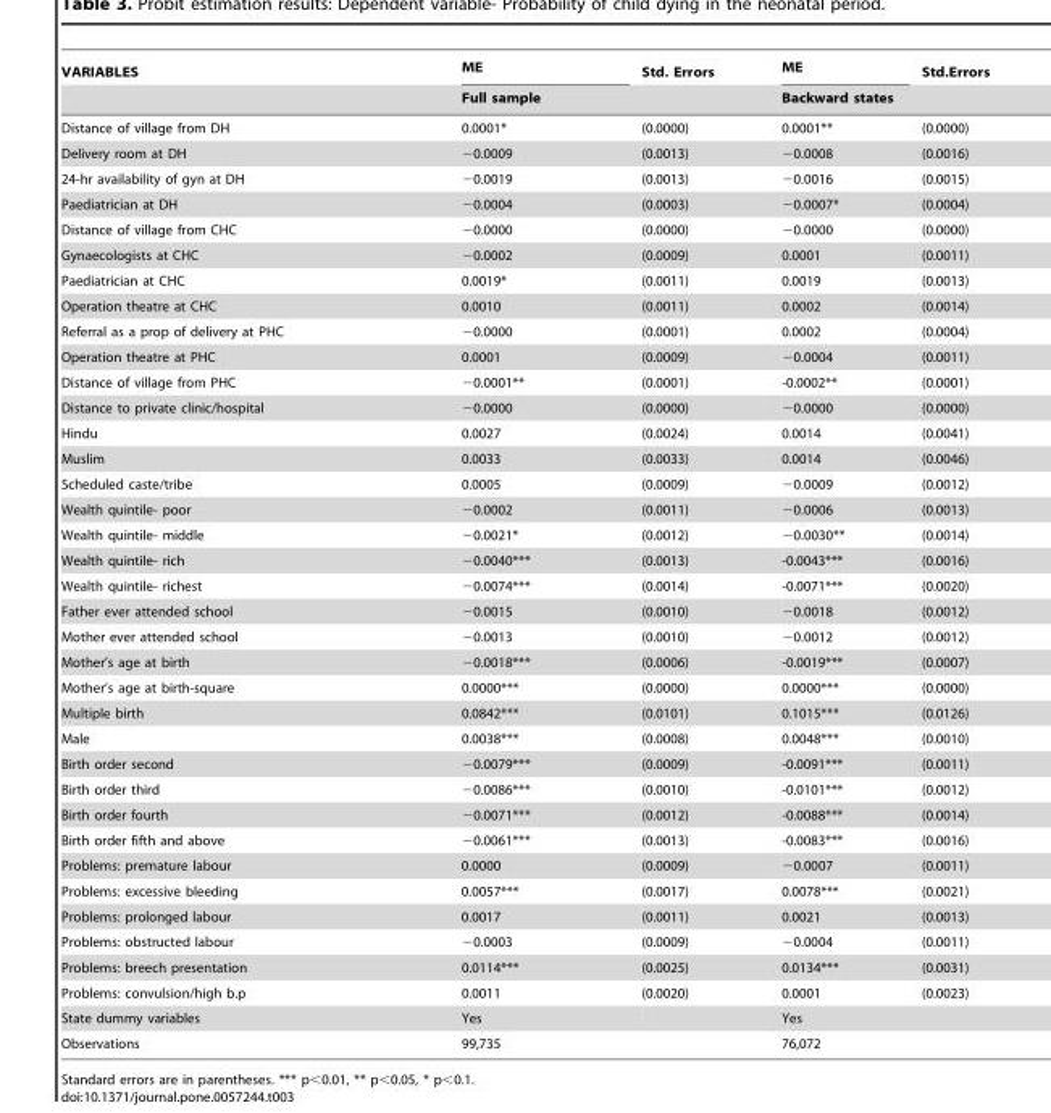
<table><thead><tr><td rowspan="2">VARIABLES</td><td>ME</td><td>Std. Errors</td><td>ME</td><td>Std.Errors</td></tr><tr><td colspan="2">Full sample</td><td colspan="2">Backward states</td></tr></thead><tbody><tr><td>Distance of village from DH</td><td>0.0001*</td><td>(0.0000)</td><td>0.0001**</td><td>(0.0000)</td></tr><tr><td>Delivery room at DH</td><td>−0.0009</td><td>(0.0013)</td><td>−0.0008</td><td>(0.0016)</td></tr><tr><td>24-hr availability of gyn at DH</td><td>−0.0019</td><td>(0.0013)</td><td>−0.0016</td><td>(0.0015)</td></tr><tr><td>Paediatrician at DH</td><td>−0.0004</td><td>(0.0003)</td><td>−0.0007*</td><td>(0.0004)</td></tr><tr><td>Distance of village from CHC</td><td>−0.0000</td><td>(0.0000)</td><td>−0.0000</td><td>(0.0000)</td></tr><tr><td>Gynaecologists at CHC</td><td>−0.0002</td><td>(0.0009)</td><td>0.0001</td><td>(0.0011)</td></tr><tr><td>Paediatrician at CHC</td><td>0.0019*</td><td>(0.0011)</td><td>0.0019</td><td>(0.0013)</td></tr><tr><td>Operation theatre at CHC</td><td>0.0010</td><td>(0.0011)</td><td>0.0002</td><td>(0.0014)</td></tr><tr><td>Referral as a prop of delivery at PHC</td><td>−0.0000</td><td>(0.0001)</td><td>0.0002</td><td>(0.0004)</td></tr><tr><td>Operation theatre at PHC</td><td>0.0001</td><td>(0.0009)</td><td>−0.0004</td><td>(0.0011)</td></tr><tr><td>Distance of village from PHC</td><td>−0.0001**</td><td>(0.0001)</td><td>-0.0002**</td><td>(0.0001)</td></tr><tr><td>Distance to private clinic/hospital</td><td>−0.0000</td><td>(0.0000)</td><td>−0.0000</td><td>(0.0000)</td></tr><tr><td>Hindu</td><td>0.0027</td><td>(0.0024)</td><td>0.0014</td><td>(0.0041)</td></tr><tr><td>Muslim</td><td>0.0033</td><td>(0.0033)</td><td>0.0014</td><td>(0.0046)</td></tr><tr><td>Scheduled caste/tribe</td><td>0.0005</td><td>(0.0009)</td><td>−0.0009</td><td>(0.0012)</td></tr><tr><td>Wealth quintile- poor</td><td>−0.0002</td><td>(0.0011)</td><td>−0.0006</td><td>(0.0013)</td></tr><tr><td>Wealth quintile- middle</td><td>−0.0021*</td><td>(0.0012)</td><td>−0.0030**</td><td>(0.0014)</td></tr><tr><td>Wealth quintile- rich</td><td>−0.0040***</td><td>(0.0013)</td><td>-0.0043***</td><td>(0.0016)</td></tr><tr><td>Wealth quintile- richest</td><td>−0.0074***</td><td>(0.0014)</td><td>-0.0071***</td><td>(0.0020)</td></tr><tr><td>Father ever attended school</td><td>−0.0015</td><td>(0.0010)</td><td>−0.0018</td><td>(0.0012)</td></tr><tr><td>Mother ever attended school</td><td>−0.0013</td><td>(0.0010)</td><td>−0.0012</td><td>(0.0012)</td></tr><tr><td>Mother’s age at birth</td><td>−0.0018***</td><td>(0.0006)</td><td>-0.0019***</td><td>(0.0007)</td></tr><tr><td>Mother’s age at birth-square</td><td>0.0000***</td><td>(0.0000)</td><td>0.0000***</td><td>(0.0000)</td></tr><tr><td>Multiple birth</td><td>0.0842***</td><td>(0.0101)</td><td>0.1015***</td><td>(0.0126)</td></tr><tr><td>Male</td><td>0.0038***</td><td>(0.0008)</td><td>0.0048***</td><td>(0.0010)</td></tr><tr><td>Birth order second</td><td>−0.0079***</td><td>(0.0009)</td><td>-0.0091***</td><td>(0.0011)</td></tr><tr><td>Birth order third</td><td>−0.0086***</td><td>(0.0010)</td><td>-0.0101***</td><td>(0.0012)</td></tr><tr><td>Birth order fourth</td><td>−0.0071***</td><td>(0.0012)</td><td>-0.0088***</td><td>(0.0014)</td></tr><tr><td>Birth order fifth and above</td><td>−0.0061***</td><td>(0.0013)</td><td>-0.0083***</td><td>(0.0016)</td></tr><tr><td>Problems: premature labour</td><td>0.0000</td><td>(0.0009)</td><td>−0.0007</td><td>(0.0011)</td></tr><tr><td>Problems: excessive bleeding</td><td>0.0057***</td><td>(0.0017)</td><td>0.0078***</td><td>(0.0021)</td></tr><tr><td>Problems: prolonged labour</td><td>0.0017</td><td>(0.0011)</td><td>0.0021</td><td>(0.0013)</td></tr><tr><td>Problems: obstructed labour</td><td>−0.0003</td><td>(0.0009)</td><td>−0.0004</td><td>(0.0011)</td></tr><tr><td>Problems: breech presentation</td><td>0.0114***</td><td>(0.0025)</td><td>0.0134***</td><td>(0.0031)</td></tr><tr><td>Problems: convulsion/high b.p</td><td>0.0011</td><td>(0.0020)</td><td>0.0001</td><td>(0.0023)</td></tr><tr><td>State dummy variables</td><td>Yes</td><td></td><td>Yes</td><td></td></tr><tr><td>Observations</td><td>99,735</td><td></td><td>76,072</td><td></td></tr></tbody></table>